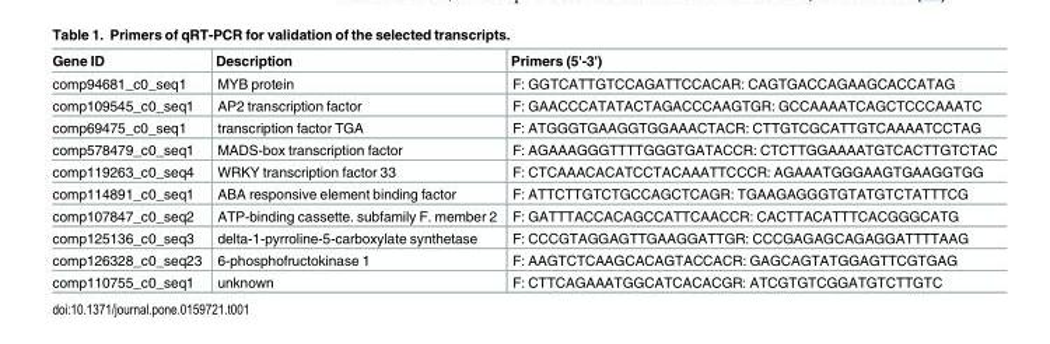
<table><thead><tr><td>Gene ID</td><td>Description</td><td>Primers (5&#x27;-3&#x27;)</td></tr></thead><tbody><tr><td>comp94681_c0_seq1</td><td>MYB protein</td><td>F: GGTCATTGTCCAGATTCCACAR: CAGTGACCAGAAGCACCATAG</td></tr><tr><td>comp109545_c0_seq1</td><td>AP2 transcription factor</td><td>F: GAACCCATATACTAGACCCAAGTGR: GCCAAAATCAGCTCCCAAATC</td></tr><tr><td>comp69475_c0_seq1</td><td>transcription factor TGA</td><td>F: ATGGGTGAAGGTGGAAACTACR: CTTGTCGCATTGTCAAAATCCTAG</td></tr><tr><td>comp578479_c0_seq1</td><td>MADS-box transcription factor</td><td>F: AGAAAGGGTTTTGGGTGATACCR: CTCTTGGAAAATGTCACTTGTCTAC</td></tr><tr><td>comp119263_c0_seq4</td><td>WRKY transcription factor 33</td><td>F: CTCAAACACATCCTACAAATTCCCR: AGAAATGGGAAGTGAAGGTGG</td></tr><tr><td>comp114891_c0_seq1</td><td>ABA responsive element binding factor</td><td>F: ATTCTTGTCTGCCAGCTCAGR: TGAAGAGGGTGTATGTCTATTTCG</td></tr><tr><td>comp107847_c0_seq2</td><td>ATP-binding cassette. subfamily F. member 2</td><td>F: GATTTACCACAGCCATTCAACCR: CACTTACATTTCACGGGCATG</td></tr><tr><td>comp125136_c0_seq3</td><td>delta-1-pyrroline-5-carboxylate synthetase</td><td>F: CCCGTAGGAGTTGAAGGATTGR: CCCGAGAGCAGAGGATTTTAAG</td></tr><tr><td>comp126328_c0_seq23</td><td>6-phosphofructokinase 1</td><td>F: AAGTCTCAAGCACAGTACCACR: GAGCAGTATGGAGTTCGTGAG</td></tr><tr><td>comp110755_c0_seq1</td><td>unknown</td><td>F: CTTCAGAAATGGCATCACACGR: ATCGTGTCGGATGTCTTGTC</td></tr></tbody></table>